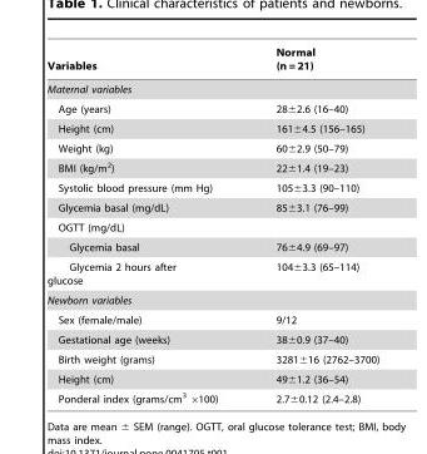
<table><thead><tr><td>Variables</td><td>Normal (n = 21)</td></tr></thead><tbody><tr><td colspan="2">Maternal variables</td></tr><tr><td>Age (years)</td><td>28±2.6 (16–40)</td></tr><tr><td>Height (cm)</td><td>161±4.5 (156–165)</td></tr><tr><td>Weight (kg)</td><td>60±2.9 (50–79)</td></tr><tr><td>BMI (kg/m<sup>2</sup>)</td><td>22±1.4 (19–23)</td></tr><tr><td>Systolic blood pressure (mm Hg)</td><td>105±3.3 (90–110)</td></tr><tr><td>Glycemia basal (mg/dL)</td><td>85±3.1 (76–99)</td></tr><tr><td colspan="2">OGTT (mg/dL)</td></tr><tr><td>Glycemia basal</td><td>76±4.9 (69–97)</td></tr><tr><td>Glycemia 2 hours after glucose</td><td>104±3.3 (65–114)</td></tr><tr><td colspan="2">Newborn variables</td></tr><tr><td>Sex (female/male)</td><td>9/12</td></tr><tr><td>Gestational age (weeks)</td><td>38±0.9 (37–40)</td></tr><tr><td>Birth weight (grams)</td><td>3281±16 (2762–3700)</td></tr><tr><td>Height (cm)</td><td>49±1.2 (36–54)</td></tr><tr><td>Ponderal index (grams/cm<sup>3</sup> ×100)</td><td>2.7±0.12 (2.4–2.8)</td></tr></tbody></table>